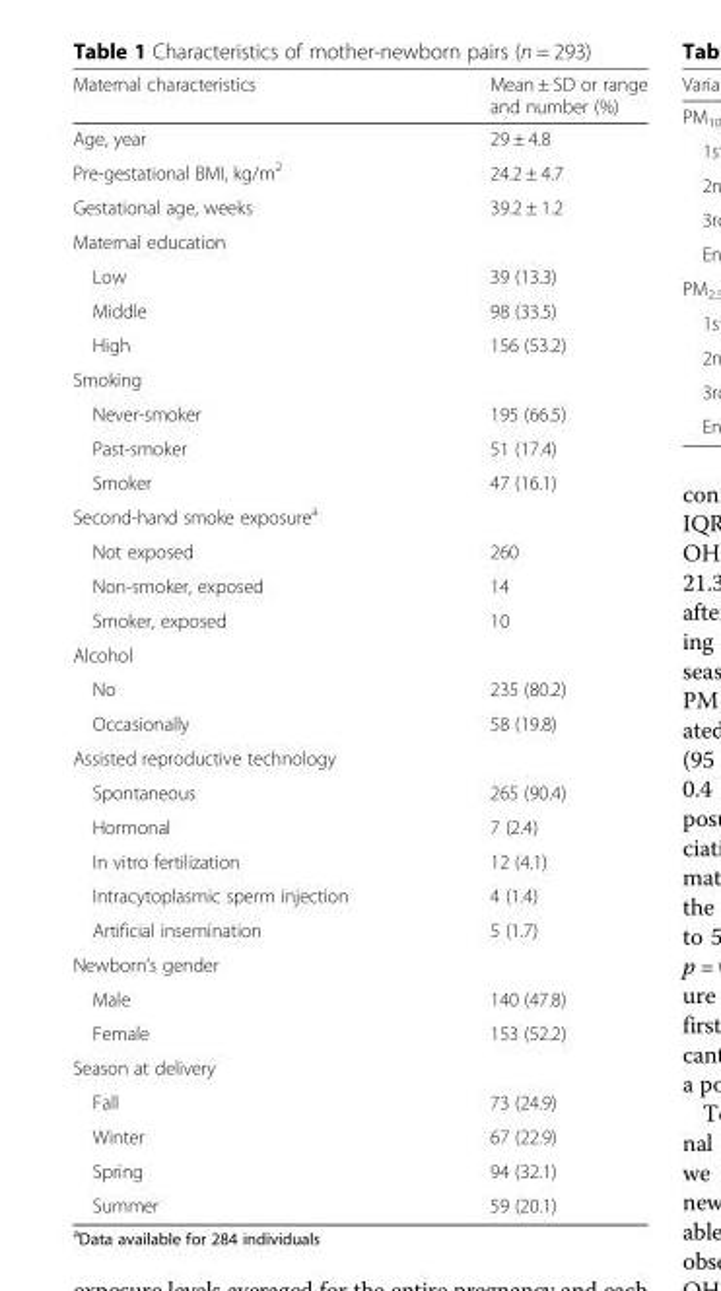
<table><thead><tr><td>Maternal characteristics</td><td>Mean ± SD or range and number (%)</td></tr></thead><tbody><tr><td>Age, year</td><td>29 ± 4.8</td></tr><tr><td>Pre-gestational BMI, kg/m<sup>2</sup></td><td>24.2 ± 4.7</td></tr><tr><td>Gestational age, weeks</td><td>39.2 ± 1.2</td></tr><tr><td colspan="2">Maternal education</td></tr><tr><td>Low</td><td>39 (13.3)</td></tr><tr><td>Middle</td><td>98 (33.5)</td></tr><tr><td>High</td><td>156 (53.2)</td></tr><tr><td colspan="2">Smoking</td></tr><tr><td>Never-smoker</td><td>195 (66.5)</td></tr><tr><td>Past-smoker</td><td>51 (17.4)</td></tr><tr><td>Smoker</td><td>47 (16.1)</td></tr><tr><td colspan="2">Second-hand smoke exposure<sup>a</sup></td></tr><tr><td>Not exposed</td><td>260</td></tr><tr><td>Non-smoker, exposed</td><td>14</td></tr><tr><td>Smoker, exposed</td><td>10</td></tr><tr><td colspan="2">Alcohol</td></tr><tr><td>No</td><td>235 (80.2)</td></tr><tr><td>Occasionally</td><td>58 (19.8)</td></tr><tr><td colspan="2">Assisted reproductive technology</td></tr><tr><td>Spontaneous</td><td>265 (90.4)</td></tr><tr><td>Hormonal</td><td>7 (2.4)</td></tr><tr><td>In vitro fertilization</td><td>12 (4.1)</td></tr><tr><td>Intracytoplasmic sperm injection</td><td>4 (1.4)</td></tr><tr><td>Artificial insemination</td><td>5 (1.7)</td></tr><tr><td colspan="2">Newborn’s gender</td></tr><tr><td>Male</td><td>140 (47.8)</td></tr><tr><td>Female</td><td>153 (52.2)</td></tr><tr><td colspan="2">Season at delivery</td></tr><tr><td>Fall</td><td>73 (24.9)</td></tr><tr><td>Winter</td><td>67 (22.9)</td></tr><tr><td>Spring</td><td>94 (32.1)</td></tr><tr><td>Summer</td><td>59 (20.1)</td></tr></tbody></table>